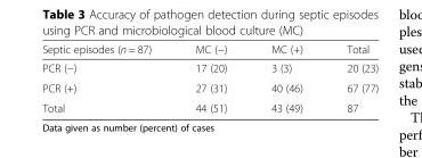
<table><thead><tr><td>Septic episodes (n = 87)</td><td>MC (−)</td><td>MC (+)</td><td>Total</td></tr></thead><tbody><tr><td>PCR (−)</td><td>17 (20)</td><td>3 (3)</td><td>20 (23)</td></tr><tr><td>PCR (+)</td><td>27 (31)</td><td>40 (46)</td><td>67 (77)</td></tr><tr><td>Total</td><td>44 (51)</td><td>43 (49)</td><td>87</td></tr></tbody></table>